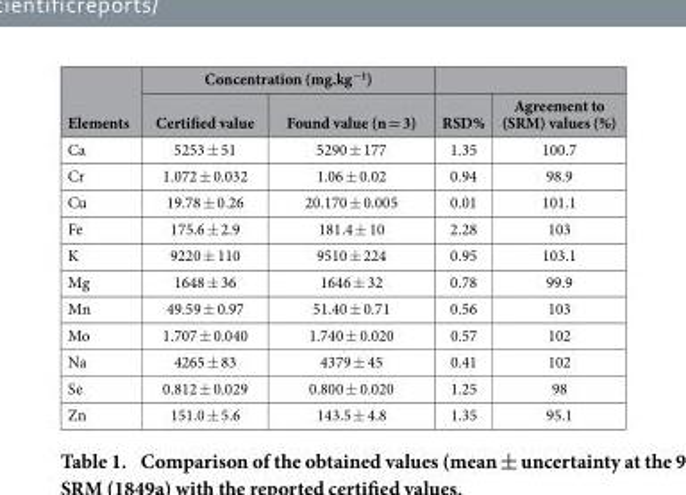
<table><thead><tr><td rowspan="2">Elements</td><td colspan="2">Concentration (mg.kg<sup>−1</sup>)</td><td rowspan="2">RSD%</td><td rowspan="2">Agreement to (SRM) values (%)</td></tr><tr><td>Certified value</td><td>Found value (n = 3)</td></tr></thead><tbody><tr><td>Ca</td><td>5253 ± 51</td><td>5290 ± 177</td><td>1.35</td><td>100.7</td></tr><tr><td>Cr</td><td>1.072 ± 0.032</td><td>1.06 ± 0.02</td><td>0.94</td><td>98.9</td></tr><tr><td>Cu</td><td>19.78 ± 0.26</td><td>20.170 ± 0.005</td><td>0.01</td><td>101.1</td></tr><tr><td>Fe</td><td>175.6 ± 2.9</td><td>181.4 ± 10</td><td>2.28</td><td>103</td></tr><tr><td>K</td><td>9220 ± 110</td><td>9510 ± 224</td><td>0.95</td><td>103.1</td></tr><tr><td>Mg</td><td>1648 ± 36</td><td>1646 ± 32</td><td>0.78</td><td>99.9</td></tr><tr><td>Mn</td><td>49.59 ± 0.97</td><td>51.40 ± 0.71</td><td>0.56</td><td>103</td></tr><tr><td>Mo</td><td>1.707 ± 0.040</td><td>1.740 ± 0.020</td><td>0.57</td><td>102</td></tr><tr><td>Na</td><td>4265 ± 83</td><td>4379 ± 45</td><td>0.41</td><td>102</td></tr><tr><td>Se</td><td>0.812 ± 0.029</td><td>0.800 ± 0.020</td><td>1.25</td><td>98</td></tr><tr><td>Zn</td><td>151.0 ± 5.6</td><td>143.5 ± 4.8</td><td>1.35</td><td>95.1</td></tr></tbody></table>